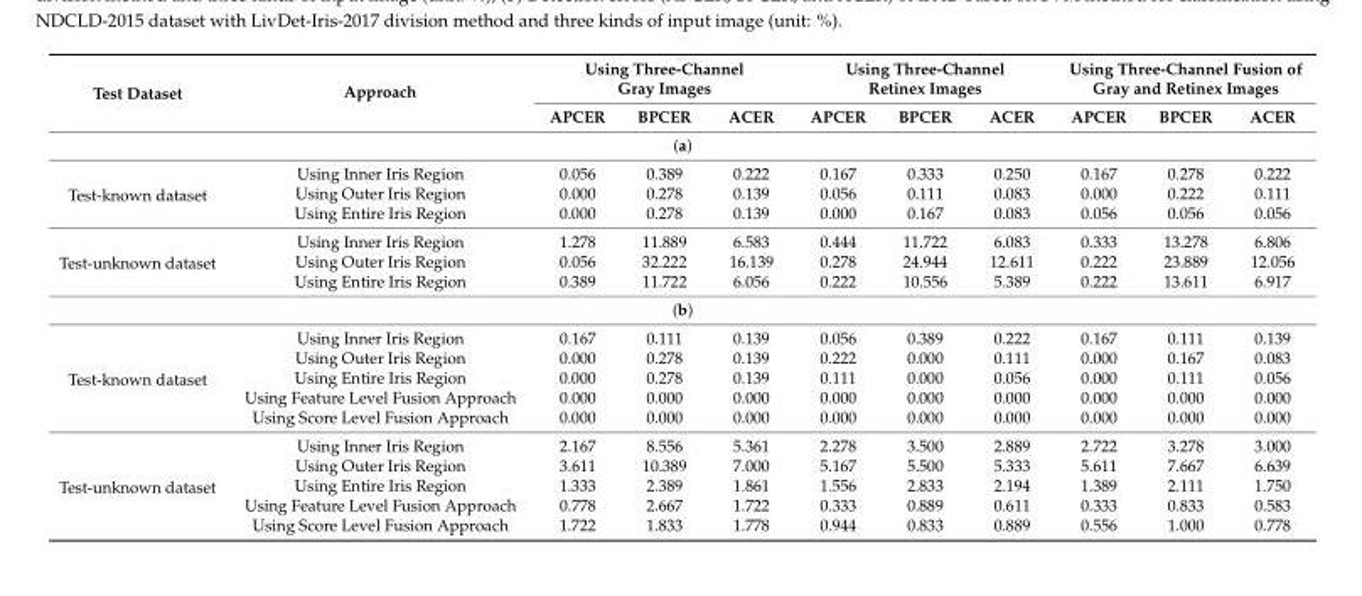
<table><thead><tr><td rowspan="2">Test Dataset</td><td rowspan="2">Approach</td><td colspan="3">Using Three-Channel Gray Images</td><td colspan="3">Using Three-Channel Retinex Images</td><td colspan="3">Using Three-Channel Fusion of Gray and Retinex Images</td></tr><tr><td>APCER</td><td>BPCER</td><td>ACER</td><td>APCER</td><td>BPCER</td><td>ACER</td><td>APCER</td><td>BPCER</td><td>ACER</td></tr></thead><tbody><tr><td colspan="11">(a)</td></tr><tr><td rowspan="3">Test-known dataset</td><td>Using Inner Iris Region</td><td>0.056</td><td>0.389</td><td>0.222</td><td>0.167</td><td>0.333</td><td>0.250</td><td>0.167</td><td>0.278</td><td>0.222</td></tr><tr><td>Using Outer Iris Region</td><td>0.000</td><td>0.278</td><td>0.139</td><td>0.056</td><td>0.111</td><td>0.083</td><td>0.000</td><td>0.222</td><td>0.111</td></tr><tr><td>Using Entire Iris Region</td><td>0.000</td><td>0.278</td><td>0.139</td><td>0.000</td><td>0.167</td><td>0.083</td><td>0.056</td><td>0.056</td><td>0.056</td></tr><tr><td rowspan="3">Test-unknown dataset</td><td>Using Inner Iris Region</td><td>1.278</td><td>11.889</td><td>6.583</td><td>0.444</td><td>11.722</td><td>6.083</td><td>0.333</td><td>13.278</td><td>6.806</td></tr><tr><td>Using Outer Iris Region</td><td>0.056</td><td>32.222</td><td>16.139</td><td>0.278</td><td>24.944</td><td>12.611</td><td>0.222</td><td>23.889</td><td>12.056</td></tr><tr><td>Using Entire Iris Region</td><td>0.389</td><td>11.722</td><td>6.056</td><td>0.222</td><td>10.556</td><td>5.389</td><td>0.222</td><td>13.611</td><td>6.917</td></tr><tr><td colspan="11">(b)</td></tr><tr><td rowspan="5">Test-known dataset</td><td>Using Inner Iris Region</td><td>0.167</td><td>0.111</td><td>0.139</td><td>0.056</td><td>0.389</td><td>0.222</td><td>0.167</td><td>0.111</td><td>0.139</td></tr><tr><td>Using Outer Iris Region</td><td>0.000</td><td>0.278</td><td>0.139</td><td>0.222</td><td>0.000</td><td>0.111</td><td>0.000</td><td>0.167</td><td>0.083</td></tr><tr><td>Using Entire Iris Region</td><td>0.000</td><td>0.278</td><td>0.139</td><td>0.111</td><td>0.000</td><td>0.056</td><td>0.000</td><td>0.111</td><td>0.056</td></tr><tr><td>Using Feature Level Fusion Approach</td><td>0.000</td><td>0.000</td><td>0.000</td><td>0.000</td><td>0.000</td><td>0.000</td><td>0.000</td><td>0.000</td><td>0.000</td></tr><tr><td>Using Score Level Fusion Approach</td><td>0.000</td><td>0.000</td><td>0.000</td><td>0.000</td><td>0.000</td><td>0.000</td><td>0.000</td><td>0.000</td><td>0.000</td></tr><tr><td rowspan="5">Test-unknown dataset</td><td>Using Inner Iris Region</td><td>2.167</td><td>8.556</td><td>5.361</td><td>2.278</td><td>3.500</td><td>2.889</td><td>2.722</td><td>3.278</td><td>3.000</td></tr><tr><td>Using Outer Iris Region</td><td>3.611</td><td>10.389</td><td>7.000</td><td>5.167</td><td>5.500</td><td>5.333</td><td>5.611</td><td>7.667</td><td>6.639</td></tr><tr><td>Using Entire Iris Region</td><td>1.333</td><td>2.389</td><td>1.861</td><td>1.556</td><td>2.833</td><td>2.194</td><td>1.389</td><td>2.111</td><td>1.750</td></tr><tr><td>Using Feature Level Fusion Approach</td><td>0.778</td><td>2.667</td><td>1.722</td><td>0.333</td><td>0.889</td><td>0.611</td><td>0.333</td><td>0.833</td><td>0.583</td></tr><tr><td>Using Score Level Fusion Approach</td><td>1.722</td><td>1.833</td><td>1.778</td><td>0.944</td><td>0.833</td><td>0.889</td><td>0.556</td><td>1.000</td><td>0.778</td></tr></tbody></table>